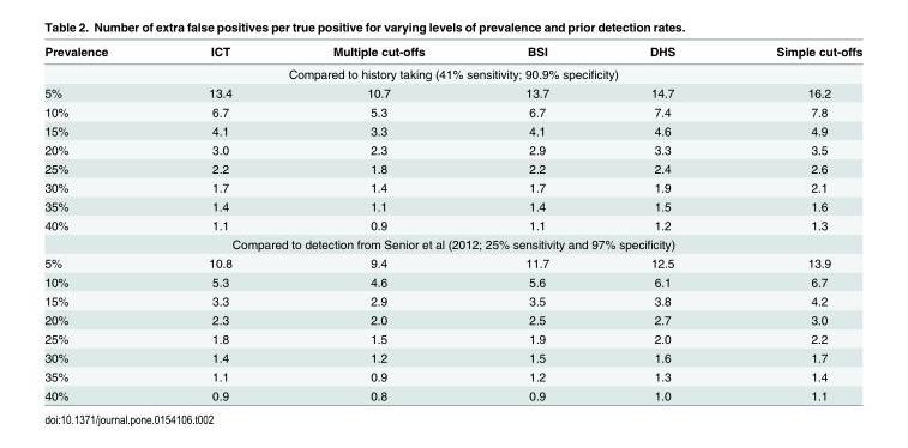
<table><thead><tr><td>Prevalence</td><td>ICT</td><td>Multiple cut-offs</td><td>BSI</td><td>DHS</td><td>Simple cut-offs</td></tr></thead><tbody><tr><td colspan="6">Compared to history taking (41% sensitivity; 90.9% specificity)</td></tr><tr><td>5%</td><td>13.4</td><td>10.7</td><td>13.7</td><td>14.7</td><td>16.2</td></tr><tr><td>10%</td><td>6.7</td><td>5.3</td><td>6.7</td><td>7.4</td><td>7.8</td></tr><tr><td>15%</td><td>4.1</td><td>3.3</td><td>4.1</td><td>4.6</td><td>4.9</td></tr><tr><td>20%</td><td>3.0</td><td>2.3</td><td>2.9</td><td>3.3</td><td>3.5</td></tr><tr><td>25%</td><td>2.2</td><td>1.8</td><td>2.2</td><td>2.4</td><td>2.6</td></tr><tr><td>30%</td><td>1.7</td><td>1.4</td><td>1.7</td><td>1.9</td><td>2.1</td></tr><tr><td>35%</td><td>1.4</td><td>1.1</td><td>1.4</td><td>1.5</td><td>1.6</td></tr><tr><td>40%</td><td>1.1</td><td>0.9</td><td>1.1</td><td>1.2</td><td>1.3</td></tr><tr><td colspan="6">Compared to detection from Senior et al (2012; 25% sensitivity and 97% specificity)</td></tr><tr><td>5%</td><td>10.8</td><td>9.4</td><td>11.7</td><td>12.5</td><td>13.9</td></tr><tr><td>10%</td><td>5.3</td><td>4.6</td><td>5.6</td><td>6.1</td><td>6.7</td></tr><tr><td>15%</td><td>3.3</td><td>2.9</td><td>3.5</td><td>3.8</td><td>4.2</td></tr><tr><td>20%</td><td>2.3</td><td>2.0</td><td>2.5</td><td>2.7</td><td>3.0</td></tr><tr><td>25%</td><td>1.8</td><td>1.5</td><td>1.9</td><td>2.0</td><td>2.2</td></tr><tr><td>30%</td><td>1.4</td><td>1.2</td><td>1.5</td><td>1.6</td><td>1.7</td></tr><tr><td>35%</td><td>1.1</td><td>0.9</td><td>1.2</td><td>1.3</td><td>1.4</td></tr><tr><td>40%</td><td>0.9</td><td>0.8</td><td>0.9</td><td>1.0</td><td>1.1</td></tr></tbody></table>